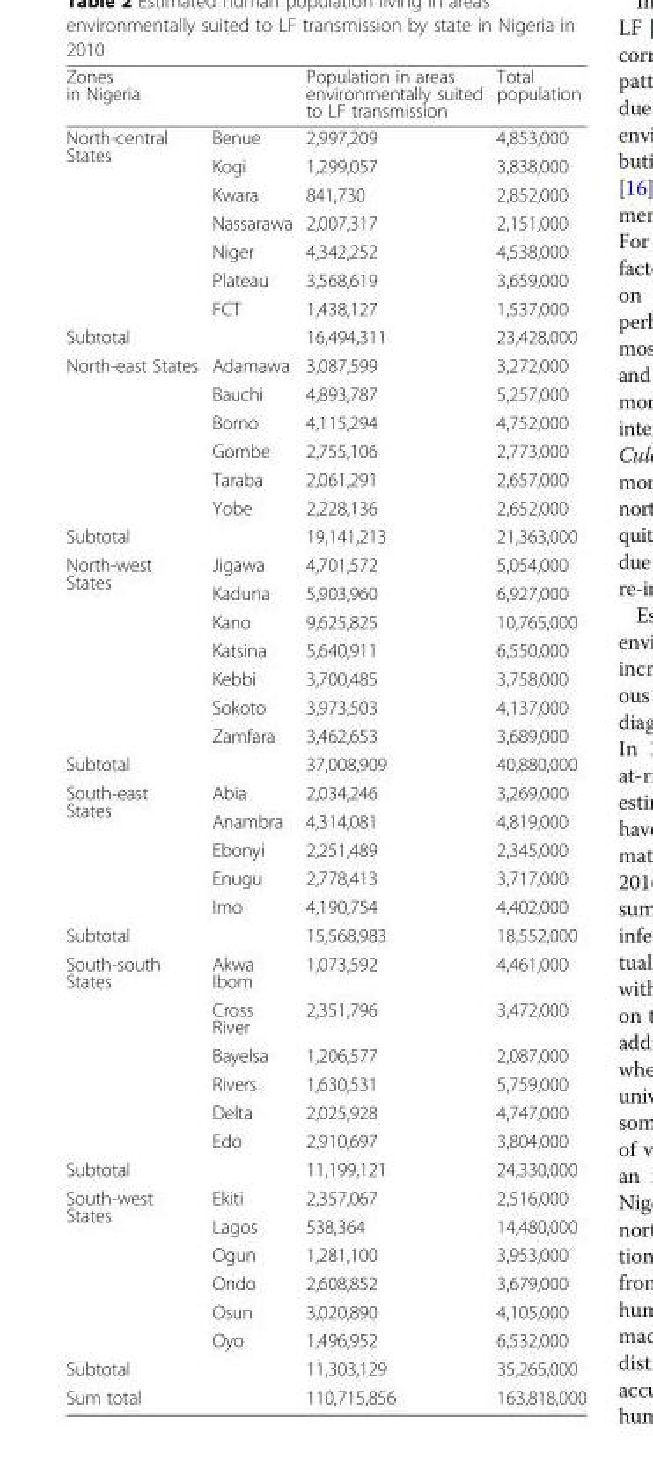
<table><thead><tr><td>Zones in Nigeria</td><td></td><td>Population in areas environmentally suited to LF transmission</td><td>Total population</td></tr></thead><tbody><tr><td rowspan="7">North-central States</td><td>Benue</td><td>2,997,209</td><td>4,853,000</td></tr><tr><td>Kogi</td><td>1,299,057</td><td>3,838,000</td></tr><tr><td>Kwara</td><td>841,730</td><td>2,852,000</td></tr><tr><td>Nassarawa</td><td>2,007,317</td><td>2,151,000</td></tr><tr><td>Niger</td><td>4,342,252</td><td>4,538,000</td></tr><tr><td>Plateau</td><td>3,568,619</td><td>3,659,000</td></tr><tr><td>FCT</td><td>1,438,127</td><td>1,537,000</td></tr><tr><td>Subtotal</td><td></td><td>16,494,311</td><td>23,428,000</td></tr><tr><td rowspan="6">North-east States</td><td>Adamawa</td><td>3,087,599</td><td>3,272,000</td></tr><tr><td>Bauchi</td><td>4,893,787</td><td>5,257,000</td></tr><tr><td>Borno</td><td>4,115,294</td><td>4,752,000</td></tr><tr><td>Gombe</td><td>2,755,106</td><td>2,773,000</td></tr><tr><td>Taraba</td><td>2,061,291</td><td>2,657,000</td></tr><tr><td>Yobe</td><td>2,228,136</td><td>2,652,000</td></tr><tr><td>Subtotal</td><td></td><td>19,141,213</td><td>21,363,000</td></tr><tr><td rowspan="7">North-west States</td><td>Jigawa</td><td>4,701,572</td><td>5,054,000</td></tr><tr><td>Kaduna</td><td>5,903,960</td><td>6,927,000</td></tr><tr><td>Kano</td><td>9,625,825</td><td>10,765,000</td></tr><tr><td>Katsina</td><td>5,640,911</td><td>6,550,000</td></tr><tr><td>Kebbi</td><td>3,700,485</td><td>3,758,000</td></tr><tr><td>Sokoto</td><td>3,973,503</td><td>4,137,000</td></tr><tr><td>Zamfara</td><td>3,462,653</td><td>3,689,000</td></tr><tr><td>Subtotal</td><td></td><td>37,008,909</td><td>40,880,000</td></tr><tr><td rowspan="5">South-east States</td><td>Abia</td><td>2,034,246</td><td>3,269,000</td></tr><tr><td>Anambra</td><td>4,314,081</td><td>4,819,000</td></tr><tr><td>Ebonyi</td><td>2,251,489</td><td>2,345,000</td></tr><tr><td>Enugu</td><td>2,778,413</td><td>3,717,000</td></tr><tr><td>Imo</td><td>4,190,754</td><td>4,402,000</td></tr><tr><td>Subtotal</td><td></td><td>15,568,983</td><td>18,552,000</td></tr><tr><td rowspan="6">South-south States</td><td>Akwa Ibom</td><td>1,073,592</td><td>4,461,000</td></tr><tr><td>Cross River</td><td>2,351,796</td><td>3,472,000</td></tr><tr><td>Bayelsa</td><td>1,206,577</td><td>2,087,000</td></tr><tr><td>Rivers</td><td>1,630,531</td><td>5,759,000</td></tr><tr><td>Delta</td><td>2,025,928</td><td>4,747,000</td></tr><tr><td>Edo</td><td>2,910,697</td><td>3,804,000</td></tr><tr><td>Subtotal</td><td></td><td>11,199,121</td><td>24,330,000</td></tr><tr><td rowspan="6">South-west States</td><td>Ekiti</td><td>2,357,067</td><td>2,516,000</td></tr><tr><td>Lagos</td><td>538,364</td><td>14,480,000</td></tr><tr><td>Ogun</td><td>1,281,100</td><td>3,953,000</td></tr><tr><td>Ondo</td><td>2,608,852</td><td>3,679,000</td></tr><tr><td>Osun</td><td>3,020,890</td><td>4,105,000</td></tr><tr><td>Oyo</td><td>1,496,952</td><td>6,532,000</td></tr><tr><td>Subtotal</td><td></td><td>11,303,129</td><td>35,265,000</td></tr><tr><td>Sum total</td><td></td><td>110,715,856</td><td>163,818,000</td></tr></tbody></table>